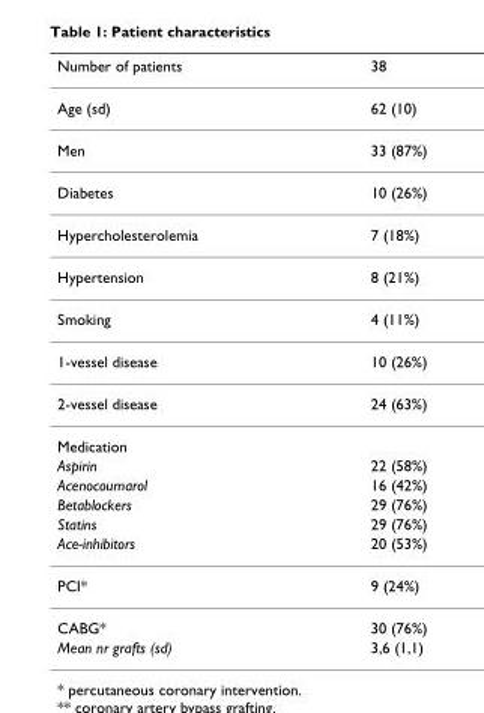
<table><thead><tr><td>Number of patients</td><td>38</td></tr></thead><tbody><tr><td>Age (sd)</td><td>62 (10)</td></tr><tr><td>Men</td><td>33 (87%)</td></tr><tr><td>Diabetes</td><td>10 (26%)</td></tr><tr><td>Hypercholesterolemia</td><td>7 (18%)</td></tr><tr><td>Hypertension</td><td>8 (21%)</td></tr><tr><td>Smoking</td><td>4 (11%)</td></tr><tr><td>1-vessel disease</td><td>10 (26%)</td></tr><tr><td>2-vessel disease</td><td>24 (63%)</td></tr><tr><td colspan="2">Medication</td></tr><tr><td>Aspirin</td><td>22 (58%)</td></tr><tr><td>Acenocoumarol</td><td>16 (42%)</td></tr><tr><td>Betablockers</td><td>29 (76%)</td></tr><tr><td>Statins</td><td>29 (76%)</td></tr><tr><td>Ace-inhibitors</td><td>20 (53%)</td></tr><tr><td>PCI*</td><td>9 (24%)</td></tr><tr><td>CABG*</td><td>30 (76%)</td></tr><tr><td>Mean nr grafts (sd)</td><td>3,6 (1,1)</td></tr></tbody></table>